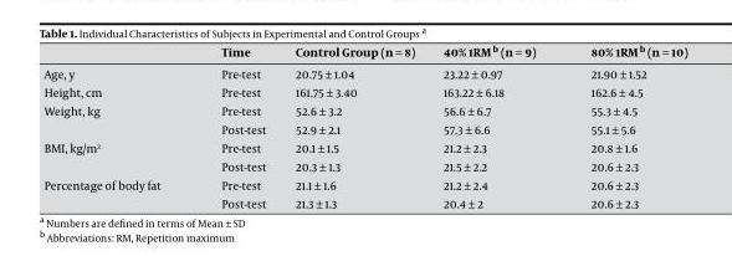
<table><thead><tr><td></td><td>Time</td><td>Control Group (n = 8)</td><td>40% 1RM b (n = 9)</td><td>80% 1RM b (n = 10)</td></tr></thead><tbody><tr><td>Age, y</td><td>Pre-test</td><td>20.75 ± 1.04</td><td>23.22 ± 0.97</td><td>21.90 ± 1.52</td></tr><tr><td>Height, cm</td><td>Pre-test</td><td>161.75 ± 3.40</td><td>163.22 ± 6.18</td><td>162.6 ± 4.5</td></tr><tr><td rowspan="2">Weight, kg</td><td>Pre-test</td><td>52.6 ± 3.2</td><td>56.6 ± 6.7</td><td>55.3 ± 4.5</td></tr><tr><td>Post-test</td><td>52.9 ± 2.1</td><td>57.3 ± 6.6</td><td>55.1 ± 5.6</td></tr><tr><td rowspan="2">BMI, kg/m<sup>2</sup></td><td>Pre-test</td><td>20.1 ± 1.5</td><td>21.2 ± 2.3</td><td>20.8 ± 1.6</td></tr><tr><td>Post-test</td><td>20.3 ± 1.3</td><td>21.5 ± 2.2</td><td>20.6 ± 2.3</td></tr><tr><td rowspan="2">Percentage of body fat</td><td>Pre-test</td><td>21.1 ± 1.6</td><td>21.2 ± 2.4</td><td>20.6 ± 2.3</td></tr><tr><td>Post-test</td><td>21.3 ± 1.3</td><td>20.4 ± 2</td><td>20.6 ± 2.3</td></tr></tbody></table>